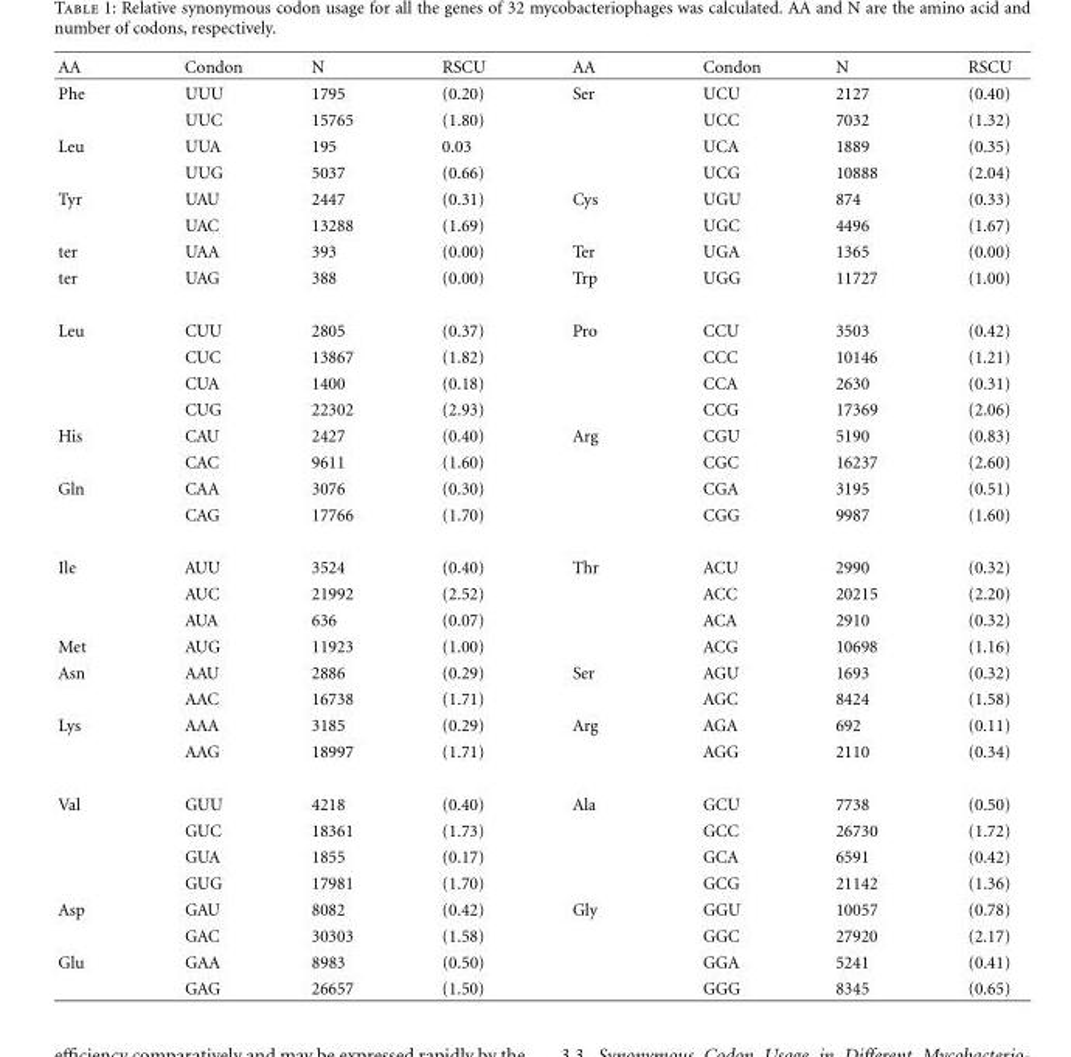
<table><thead><tr><td>AA</td><td>Condon</td><td>N</td><td>RSCU</td><td>AA</td><td>Condon</td><td>N</td><td>RSCU</td></tr></thead><tbody><tr><td rowspan="2">Phe</td><td>UUU</td><td>1795</td><td>(0.20)</td><td>Ser</td><td>UCU</td><td>2127</td><td>(0.40)</td></tr><tr><td>UUC</td><td>15765</td><td>(1.80)</td><td></td><td>UCC</td><td>7032</td><td>(1.32)</td></tr><tr><td rowspan="2">Leu</td><td>UUA</td><td>195</td><td>0.03</td><td></td><td>UCA</td><td>1889</td><td>(0.35)</td></tr><tr><td>UUG</td><td>5037</td><td>(0.66)</td><td></td><td>UCG</td><td>10888</td><td>(2.04)</td></tr><tr><td rowspan="2">Tyr</td><td>UAU</td><td>2447</td><td>(0.31)</td><td>Cys</td><td>UGU</td><td>874</td><td>(0.33)</td></tr><tr><td>UAC</td><td>13288</td><td>(1.69)</td><td></td><td>UGC</td><td>4496</td><td>(1.67)</td></tr><tr><td>ter</td><td>UAA</td><td>393</td><td>(0.00)</td><td>Ter</td><td>UGA</td><td>1365</td><td>(0.00)</td></tr><tr><td>ter</td><td>UAG</td><td>388</td><td>(0.00)</td><td>Trp</td><td>UGG</td><td>11727</td><td>(1.00)</td></tr><tr><td rowspan="4">Leu</td><td>CUU</td><td>2805</td><td>(0.37)</td><td>Pro</td><td>CCU</td><td>3503</td><td>(0.42)</td></tr><tr><td>CUC</td><td>13867</td><td>(1.82)</td><td></td><td>CCC</td><td>10146</td><td>(1.21)</td></tr><tr><td>CUA</td><td>1400</td><td>(0.18)</td><td></td><td>CCA</td><td>2630</td><td>(0.31)</td></tr><tr><td>CUG</td><td>22302</td><td>(2.93)</td><td></td><td>CCG</td><td>17369</td><td>(2.06)</td></tr><tr><td rowspan="2">His</td><td>CAU</td><td>2427</td><td>(0.40)</td><td>Arg</td><td>CGU</td><td>5190</td><td>(0.83)</td></tr><tr><td>CAC</td><td>9611</td><td>(1.60)</td><td></td><td>CGC</td><td>16237</td><td>(2.60)</td></tr><tr><td rowspan="2">Gln</td><td>CAA</td><td>3076</td><td>(0.30)</td><td></td><td>CGA</td><td>3195</td><td>(0.51)</td></tr><tr><td>CAG</td><td>17766</td><td>(1.70)</td><td></td><td>CGG</td><td>9987</td><td>(1.60)</td></tr><tr><td rowspan="3">Ile</td><td>AUU</td><td>3524</td><td>(0.40)</td><td>Thr</td><td>ACU</td><td>2990</td><td>(0.32)</td></tr><tr><td>AUC</td><td>21992</td><td>(2.52)</td><td></td><td>ACC</td><td>20215</td><td>(2.20)</td></tr><tr><td>AUA</td><td>636</td><td>(0.07)</td><td></td><td>ACA</td><td>2910</td><td>(0.32)</td></tr><tr><td>Met</td><td>AUG</td><td>11923</td><td>(1.00)</td><td></td><td>ACG</td><td>10698</td><td>(1.16)</td></tr><tr><td rowspan="2">Asn</td><td>AAU</td><td>2886</td><td>(0.29)</td><td>Ser</td><td>AGU</td><td>1693</td><td>(0.32)</td></tr><tr><td>AAC</td><td>16738</td><td>(1.71)</td><td></td><td>AGC</td><td>8424</td><td>(1.58)</td></tr><tr><td rowspan="2">Lys</td><td>AAA</td><td>3185</td><td>(0.29)</td><td>Arg</td><td>AGA</td><td>692</td><td>(0.11)</td></tr><tr><td>AAG</td><td>18997</td><td>(1.71)</td><td></td><td>AGG</td><td>2110</td><td>(0.34)</td></tr><tr><td rowspan="4">Val</td><td>GUU</td><td>4218</td><td>(0.40)</td><td>Ala</td><td>GCU</td><td>7738</td><td>(0.50)</td></tr><tr><td>GUC</td><td>18361</td><td>(1.73)</td><td></td><td>GCC</td><td>26730</td><td>(1.72)</td></tr><tr><td>GUA</td><td>1855</td><td>(0.17)</td><td></td><td>GCA</td><td>6591</td><td>(0.42)</td></tr><tr><td>GUG</td><td>17981</td><td>(1.70)</td><td></td><td>GCG</td><td>21142</td><td>(1.36)</td></tr><tr><td rowspan="2">Asp</td><td>GAU</td><td>8082</td><td>(0.42)</td><td>Gly</td><td>GGU</td><td>10057</td><td>(0.78)</td></tr><tr><td>GAC</td><td>30303</td><td>(1.58)</td><td></td><td>GGC</td><td>27920</td><td>(2.17)</td></tr><tr><td rowspan="2">Glu</td><td>GAA</td><td>8983</td><td>(0.50)</td><td></td><td>GGA</td><td>5241</td><td>(0.41)</td></tr><tr><td>GAG</td><td>26657</td><td>(1.50)</td><td></td><td>GGG</td><td>8345</td><td>(0.65)</td></tr></tbody></table>